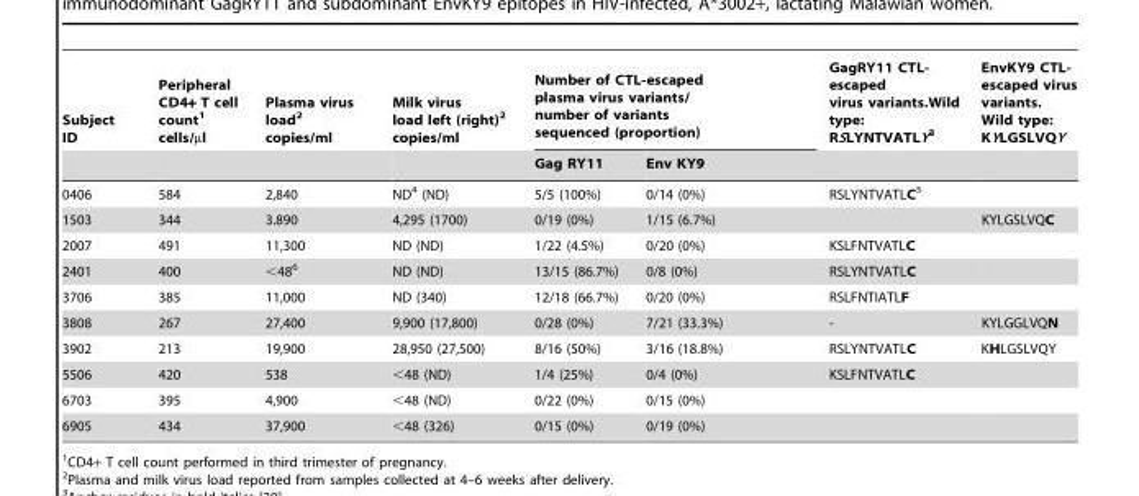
<table><thead><tr><td rowspan="2">Subject ID</td><td rowspan="2">Peripheral CD4+ T cell count<sup>1</sup> cells/µl</td><td rowspan="2">Plasma virus load<sup>2</sup> copies/ml</td><td rowspan="2">Milk virus load left (right)<sup>2</sup> copies/ml</td><td colspan="2">Number of CTL-escaped plasma virus variants/ number of variants sequenced (proportion)</td><td rowspan="2">GagRY11 CTL- escaped virus variants.Wild type: RSLYNTVATLY3</td><td rowspan="2">EnvKY9 CTL- escaped virus variants. Wild type: KYLGSLVQY</td></tr><tr><td>Gag RY11</td><td>Env KY9</td></tr></thead><tbody><tr><td>0406</td><td>584</td><td>2,840</td><td>ND<sup>4</sup> (ND)</td><td>5/5 (100%)</td><td>0/14 (0%)</td><td>RSLYNTVATLC5</td><td></td></tr><tr><td>1503</td><td>344</td><td>3.890</td><td>4,295 (1700)</td><td>0/19 (0%)</td><td>1/15 (6.7%)</td><td></td><td>KYLGSLVQC</td></tr><tr><td>2007</td><td>491</td><td>11,300</td><td>ND (ND)</td><td>1/22 (4.5%)</td><td>0/20 (0%)</td><td>KSLFNTVATLC</td><td></td></tr><tr><td>2401</td><td>400</td><td>&lt;48<sup>6</sup></td><td>ND (ND)</td><td>13/15 (86.7%)</td><td>0/8 (0%)</td><td>RSLYNTVATLC</td><td></td></tr><tr><td>3706</td><td>385</td><td>11,000</td><td>ND (340)</td><td>12/18 (66.7%)</td><td>0/20 (0%)</td><td>RSLFNTIATLF</td><td></td></tr><tr><td>3808</td><td>267</td><td>27,400</td><td>9,900 (17,800)</td><td>0/28 (0%)</td><td>7/21 (33.3%)</td><td>-</td><td>KYLGGLVQN</td></tr><tr><td>3902</td><td>213</td><td>19,900</td><td>28,950 (27,500)</td><td>8/16 (50%)</td><td>3/16 (18.8%)</td><td>RSLYNTVATLC</td><td>KHLGSLVQY</td></tr><tr><td>5506</td><td>420</td><td>538</td><td>&lt;48 (ND)</td><td>1/4 (25%)</td><td>0/4 (0%)</td><td>KSLFNTVATLC</td><td></td></tr><tr><td>6703</td><td>395</td><td>4,900</td><td>&lt;48 (ND)</td><td>0/22 (0%)</td><td>0/15 (0%)</td><td></td><td></td></tr><tr><td>6905</td><td>434</td><td>37,900</td><td>&lt;48 (326)</td><td>0/15 (0%)</td><td>0/19 (0%)</td><td></td><td></td></tr></tbody></table>